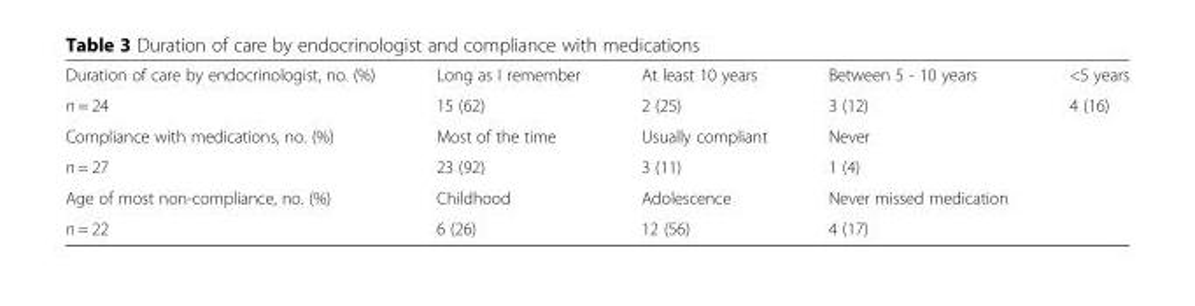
<table><tbody><tr><td>Duration of care by endocrinologist, no. (%)</td><td>Long as I remember</td><td>At least 10 years</td><td>Between 5 - 10 years</td><td>&lt;5 years</td></tr><tr><td>n = 24</td><td>15 (62)</td><td>2 (25)</td><td>3 (12)</td><td>4 (16)</td></tr><tr><td>Compliance with medications, no. (%)</td><td>Most of the time</td><td>Usually compliant</td><td>Never</td><td></td></tr><tr><td>n = 27</td><td>23 (92)</td><td>3 (11)</td><td>1 (4)</td><td></td></tr><tr><td>Age of most non-compliance, no. (%)</td><td>Childhood</td><td>Adolescence</td><td>Never missed medication</td><td></td></tr><tr><td>n = 22</td><td>6 (26)</td><td>12 (56)</td><td>4 (17)</td><td></td></tr></tbody></table>